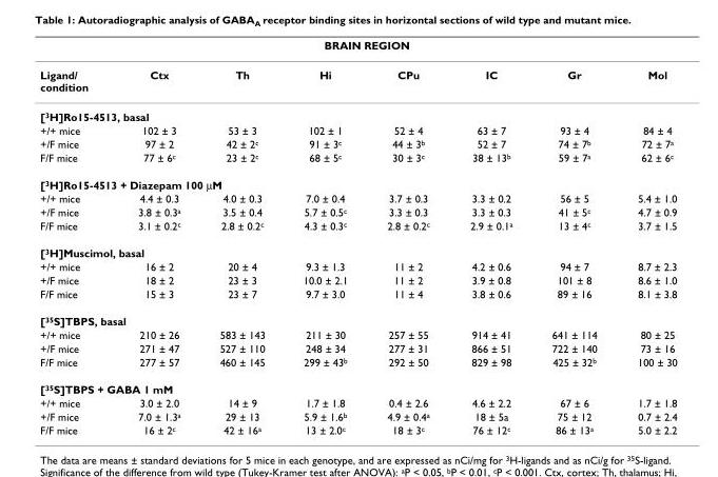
<table><thead><tr><td colspan="8">BRAIN REGION</td></tr><tr><td>Ligand/ condition</td><td>Ctx</td><td>Th</td><td>Hi</td><td>CPu</td><td>IC</td><td>Gr</td><td>Mol</td></tr></thead><tbody><tr><td colspan="8">[3H]Ro15-4513, basal</td></tr><tr><td>+/+ mice</td><td>102 ± 3</td><td>53 ± 3</td><td>102 ± 1</td><td>52 ± 4</td><td>63 ± 7</td><td>93 ± 4</td><td>84 ± 4</td></tr><tr><td>+/F mice</td><td>97 ± 2</td><td>42 ± 2c</td><td>91 ± 3c</td><td>44 ± 3b</td><td>52 ± 7</td><td>74 ± 7b</td><td>72 ± 7a</td></tr><tr><td>F/F mice</td><td>77 ± 6c</td><td>23 ± 2c</td><td>68 ± 5c</td><td>30 ± 3c</td><td>38 ± 13b</td><td>59 ± 7a</td><td>62 ± 6c</td></tr><tr><td colspan="8">[3H]Ro15-4513 + Diazepam 100 µM</td></tr><tr><td>+/+ mice</td><td>4.4 ± 0.3</td><td>4.0 ± 0.3</td><td>7.0 ± 0.4</td><td>3.7 ± 0.3</td><td>3.3 ± 0.2</td><td>56 ± 5</td><td>5.4 ± 1.0</td></tr><tr><td>+/F mice</td><td>3.8 ± 0.3a</td><td>3.5 ± 0.4</td><td>5.7 ± 0.5c</td><td>3.3 ± 0.3</td><td>3.3 ± 0.3</td><td>41 ± 5c</td><td>4.7 ± 0.9</td></tr><tr><td>F/F mice</td><td>3.1 ± 0.2c</td><td>2.8 ± 0.2c</td><td>4.3 ± 0.3c</td><td>2.8 ± 0.2c</td><td>2.9 ± 0.1a</td><td>13 ± 4c</td><td>3.7 ± 1.5</td></tr><tr><td colspan="8">[3H]Muscimol, basal</td></tr><tr><td>+/+ mice</td><td>16 ± 2</td><td>20 ± 4</td><td>9.3 ± 1.3</td><td>11 ± 2</td><td>4.2 ± 0.6</td><td>94 ± 7</td><td>8.7 ± 2.3</td></tr><tr><td>+/F mice</td><td>18 ± 2</td><td>23 ± 3</td><td>10.0 ± 2.1</td><td>11 ± 2</td><td>3.9 ± 0.8</td><td>101 ± 8</td><td>8.6 ± 1.0</td></tr><tr><td>F/F mice</td><td>15 ± 3</td><td>23 ± 7</td><td>9.7 ± 3.0</td><td>11 ± 4</td><td>3.8 ± 0.6</td><td>89 ± 16</td><td>8.1 ± 3.8</td></tr><tr><td colspan="8">[35S]TBPS, basal</td></tr><tr><td>+/+ mice</td><td>210 ± 26</td><td>583 ± 143</td><td>211 ± 30</td><td>257 ± 55</td><td>914 ± 41</td><td>641 ± 114</td><td>80 ± 25</td></tr><tr><td>+/F mice</td><td>271 ± 47</td><td>527 ± 110</td><td>248 ± 34</td><td>277 ± 31</td><td>866 ± 51</td><td>722 ± 140</td><td>73 ± 16</td></tr><tr><td>F/F mice</td><td>277 ± 57</td><td>460 ± 145</td><td>299 ± 43b</td><td>292 ± 50</td><td>829 ± 98</td><td>425 ± 32b</td><td>100 ± 30</td></tr><tr><td colspan="8">[35S]TBPS + GABA 1 mM</td></tr><tr><td>+/+ mice</td><td>3.0 ± 2.0</td><td>14 ± 9</td><td>1.7 ± 1.8</td><td>0.4 ± 2.6</td><td>4.6 ± 2.2</td><td>67 ± 6</td><td>1.7 ± 1.8</td></tr><tr><td>+/F mice</td><td>7.0 ± 1.3a</td><td>29 ± 13</td><td>5.9 ± 1.6b</td><td>4.9 ± 0.4a</td><td>18 ± 5a</td><td>75 ± 12</td><td>0.7 ± 2.4</td></tr><tr><td>F/F mice</td><td>16 ± 2c</td><td>42 ± 16a</td><td>13 ± 2.0c</td><td>18 ± 3c</td><td>76 ± 12c</td><td>86 ± 13a</td><td>5.0 ± 2.2</td></tr></tbody></table>